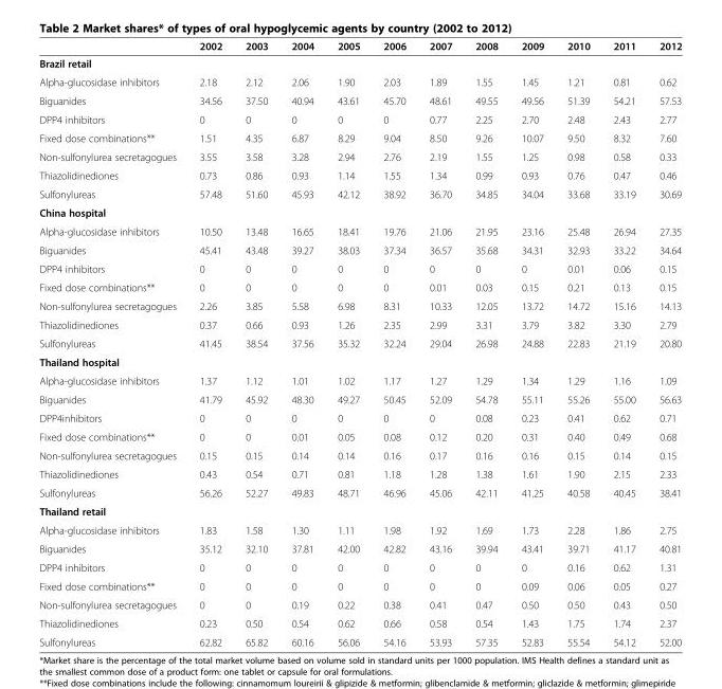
<table><thead><tr><td></td><td>2002</td><td>2003</td><td>2004</td><td>2005</td><td>2006</td><td>2007</td><td>2008</td><td>2009</td><td>2010</td><td>2011</td><td>2012</td></tr></thead><tbody><tr><td colspan="12">Brazil retail</td></tr><tr><td>Alpha-glucosidase inhibitors</td><td>2.18</td><td>2.12</td><td>2.06</td><td>1.90</td><td>2.03</td><td>1.89</td><td>1.55</td><td>1.45</td><td>1.21</td><td>0.81</td><td>0.62</td></tr><tr><td>Biguanides</td><td>34.56</td><td>37.50</td><td>40.94</td><td>43.61</td><td>45.70</td><td>48.61</td><td>49.55</td><td>49.56</td><td>51.39</td><td>54.21</td><td>57.53</td></tr><tr><td>DPP4 inhibitors</td><td>0</td><td>0</td><td>0</td><td>0</td><td>0</td><td>0.77</td><td>2.25</td><td>2.70</td><td>2.48</td><td>2.43</td><td>2.77</td></tr><tr><td>Fixed dose combinations**</td><td>1.51</td><td>4.35</td><td>6.87</td><td>8.29</td><td>9.04</td><td>8.50</td><td>9.26</td><td>10.07</td><td>9.50</td><td>8.32</td><td>7.60</td></tr><tr><td>Non-sulfonylurea secretagogues</td><td>3.55</td><td>3.58</td><td>3.28</td><td>2.94</td><td>2.76</td><td>2.19</td><td>1.55</td><td>1.25</td><td>0.98</td><td>0.58</td><td>0.33</td></tr><tr><td>Thiazolidinediones</td><td>0.73</td><td>0.86</td><td>0.93</td><td>1.14</td><td>1.55</td><td>1.34</td><td>0.99</td><td>0.93</td><td>0.76</td><td>0.47</td><td>0.46</td></tr><tr><td>Sulfonylureas</td><td>57.48</td><td>51.60</td><td>45.93</td><td>42.12</td><td>38.92</td><td>36.70</td><td>34.85</td><td>34.04</td><td>33.68</td><td>33.19</td><td>30.69</td></tr><tr><td colspan="12">China hospital</td></tr><tr><td>Alpha-glucosidase inhibitors</td><td>10.50</td><td>13.48</td><td>16.65</td><td>18.41</td><td>19.76</td><td>21.06</td><td>21.95</td><td>23.16</td><td>25.48</td><td>26.94</td><td>27.35</td></tr><tr><td>Biguanides</td><td>45.41</td><td>43.48</td><td>39.27</td><td>38.03</td><td>37.34</td><td>36.57</td><td>35.68</td><td>34.31</td><td>32.93</td><td>33.22</td><td>34.64</td></tr><tr><td>DPP4 inhibitors</td><td>0</td><td>0</td><td>0</td><td>0</td><td>0</td><td>0</td><td>0</td><td>0</td><td>0.01</td><td>0.06</td><td>0.15</td></tr><tr><td>Fixed dose combinations**</td><td>0</td><td>0</td><td>0</td><td>0</td><td>0</td><td>0.01</td><td>0.03</td><td>0.15</td><td>0.21</td><td>0.13</td><td>0.15</td></tr><tr><td>Non-sulfonylurea secretagogues</td><td>2.26</td><td>3.85</td><td>5.58</td><td>6.98</td><td>8.31</td><td>10.33</td><td>12.05</td><td>13.72</td><td>14.72</td><td>15.16</td><td>14.13</td></tr><tr><td>Thiazolidinediones</td><td>0.37</td><td>0.66</td><td>0.93</td><td>1.26</td><td>2.35</td><td>2.99</td><td>3.31</td><td>3.79</td><td>3.82</td><td>3.30</td><td>2.79</td></tr><tr><td>Sulfonylureas</td><td>41.45</td><td>38.54</td><td>37.56</td><td>35.32</td><td>32.24</td><td>29.04</td><td>26.98</td><td>24.88</td><td>22.83</td><td>21.19</td><td>20.80</td></tr><tr><td colspan="12">Thailand hospital</td></tr><tr><td>Alpha-glucosidase inhibitors</td><td>1.37</td><td>1.12</td><td>1.01</td><td>1.02</td><td>1.17</td><td>1.27</td><td>1.29</td><td>1.34</td><td>1.29</td><td>1.16</td><td>1.09</td></tr><tr><td>Biguanides</td><td>41.79</td><td>45.92</td><td>48.30</td><td>49.27</td><td>50.45</td><td>52.09</td><td>54.78</td><td>55.11</td><td>55.26</td><td>55.00</td><td>56.63</td></tr><tr><td>DPP4inhibitors</td><td>0</td><td>0</td><td>0</td><td>0</td><td>0</td><td>0</td><td>0.08</td><td>0.23</td><td>0.41</td><td>0.62</td><td>0.71</td></tr><tr><td>Fixed dose combinations**</td><td>0</td><td>0</td><td>0.01</td><td>0.05</td><td>0.08</td><td>0.12</td><td>0.20</td><td>0.31</td><td>0.40</td><td>0.49</td><td>0.68</td></tr><tr><td>Non-sulfonylurea secretagogues</td><td>0.15</td><td>0.15</td><td>0.14</td><td>0.14</td><td>0.16</td><td>0.17</td><td>0.16</td><td>0.16</td><td>0.15</td><td>0.14</td><td>0.15</td></tr><tr><td>Thiazolidinediones</td><td>0.43</td><td>0.54</td><td>0.71</td><td>0.81</td><td>1.18</td><td>1.28</td><td>1.38</td><td>1.61</td><td>1.90</td><td>2.15</td><td>2.33</td></tr><tr><td>Sulfonylureas</td><td>56.26</td><td>52.27</td><td>49.83</td><td>48.71</td><td>46.96</td><td>45.06</td><td>42.11</td><td>41.25</td><td>40.58</td><td>40.45</td><td>38.41</td></tr><tr><td colspan="12">Thailand retail</td></tr><tr><td>Alpha-glucosidase inhibitors</td><td>1.83</td><td>1.58</td><td>1.30</td><td>1.11</td><td>1.98</td><td>1.92</td><td>1.69</td><td>1.73</td><td>2.28</td><td>1.86</td><td>2.75</td></tr><tr><td>Biguanides</td><td>35.12</td><td>32.10</td><td>37.81</td><td>42.00</td><td>42.82</td><td>43.16</td><td>39.94</td><td>43.41</td><td>39.71</td><td>41.17</td><td>40.81</td></tr><tr><td>DPP4 inhibitors</td><td>0</td><td>0</td><td>0</td><td>0</td><td>0</td><td>0</td><td>0</td><td>0</td><td>0.16</td><td>0.62</td><td>1.31</td></tr><tr><td>Fixed dose combinations**</td><td>0</td><td>0</td><td>0</td><td>0</td><td>0</td><td>0</td><td>0</td><td>0.09</td><td>0.06</td><td>0.05</td><td>0.27</td></tr><tr><td>Non-sulfonylurea secretagogues</td><td>0</td><td>0</td><td>0.19</td><td>0.22</td><td>0.38</td><td>0.41</td><td>0.47</td><td>0.50</td><td>0.50</td><td>0.43</td><td>0.50</td></tr><tr><td>Thiazolidinediones</td><td>0.23</td><td>0.50</td><td>0.54</td><td>0.62</td><td>0.66</td><td>0.58</td><td>0.54</td><td>1.43</td><td>1.75</td><td>1.74</td><td>2.37</td></tr><tr><td>Sulfonylureas</td><td>62.82</td><td>65.82</td><td>60.16</td><td>56.06</td><td>54.16</td><td>53.93</td><td>57.35</td><td>52.83</td><td>55.54</td><td>54.12</td><td>52.00</td></tr></tbody></table>